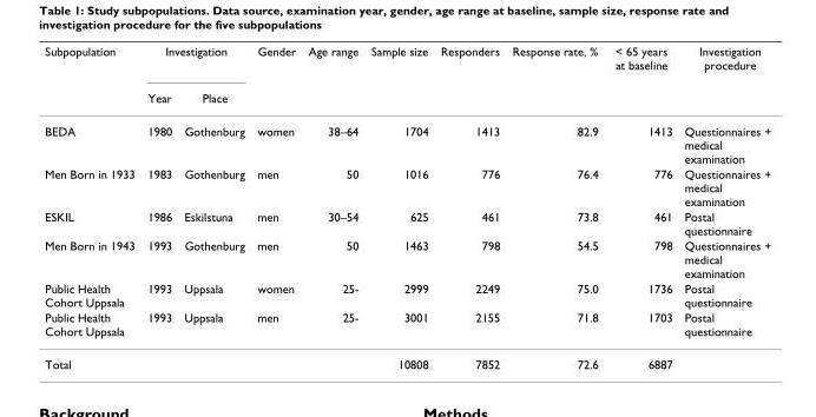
<table><thead><tr><td rowspan="2">Subpopulation</td><td colspan="2">Investigation</td><td rowspan="2">Gender</td><td rowspan="2">Age range</td><td rowspan="2">Sample size</td><td rowspan="2">Responders</td><td rowspan="2">Response rate, %</td><td rowspan="2">&lt; 65 years at baseline</td><td rowspan="2">Investigation procedure</td></tr><tr><td>Year</td><td>Place</td></tr></thead><tbody><tr><td>BEDA</td><td>1980</td><td>Gothenburg</td><td>women</td><td>38–64</td><td>1704</td><td>1413</td><td>82.9</td><td>1413</td><td>Questionnaires + medical examination</td></tr><tr><td>Men Born in 1933</td><td>1983</td><td>Gothenburg</td><td>men</td><td>50</td><td>1016</td><td>776</td><td>76.4</td><td>776</td><td>Questionnaires + medical examination</td></tr><tr><td>ESKIL</td><td>1986</td><td>Eskilstuna</td><td>men</td><td>30–54</td><td>625</td><td>461</td><td>73.8</td><td>461</td><td>Postal questionnaire</td></tr><tr><td>Men Born in 1943</td><td>1993</td><td>Gothenburg</td><td>men</td><td>50</td><td>1463</td><td>798</td><td>54.5</td><td>798</td><td>Questionnaires + medical examination</td></tr><tr><td>Public Health Cohort Uppsala</td><td>1993</td><td>Uppsala</td><td>women</td><td>25-</td><td>2999</td><td>2249</td><td>75.0</td><td>1736</td><td>Postal questionnaire</td></tr><tr><td>Public Health Cohort Uppsala</td><td>1993</td><td>Uppsala</td><td>men</td><td>25-</td><td>3001</td><td>2155</td><td>71.8</td><td>1703</td><td>Postal questionnaire</td></tr><tr><td>Total</td><td></td><td></td><td></td><td></td><td>10808</td><td>7852</td><td>72.6</td><td>6887</td><td></td></tr></tbody></table>